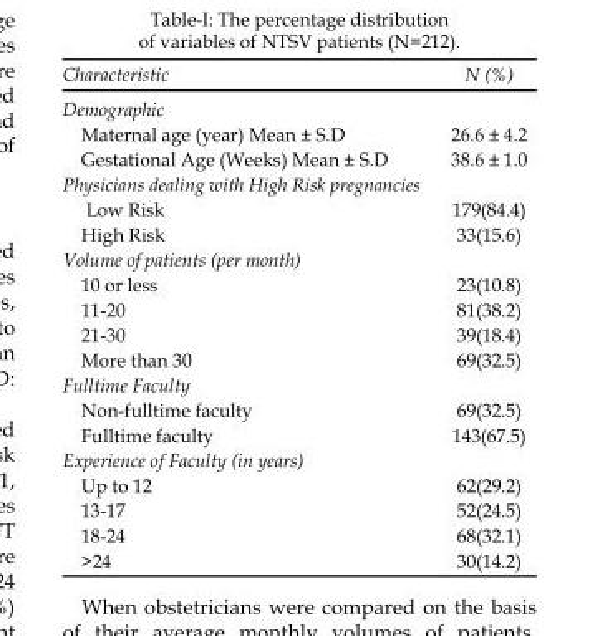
<table><thead><tr><td>Characteristic</td><td>N (%)</td></tr></thead><tbody><tr><td colspan="2">Demographic</td></tr><tr><td>Maternal age (year) Mean ± S.D</td><td>26.6 ± 4.2</td></tr><tr><td>Gestational Age (Weeks) Mean ± S.D</td><td>38.6 ± 1.0</td></tr><tr><td colspan="2">Physicians dealing with High Risk pregnancies</td></tr><tr><td>Low Risk</td><td>179(84.4)</td></tr><tr><td>High Risk</td><td>33(15.6)</td></tr><tr><td colspan="2">Volume of patients (per month)</td></tr><tr><td>10 or less</td><td>23(10.8)</td></tr><tr><td>11-20</td><td>81(38.2)</td></tr><tr><td>21-30</td><td>39(18.4)</td></tr><tr><td>More than 30</td><td>69(32.5)</td></tr><tr><td colspan="2">Fulltime Faculty</td></tr><tr><td>Non-fulltime faculty</td><td>69(32.5)</td></tr><tr><td>Fulltime faculty</td><td>143(67.5)</td></tr><tr><td colspan="2">Experience of Faculty (in years)</td></tr><tr><td>Up to 12</td><td>62(29.2)</td></tr><tr><td>13-17</td><td>52(24.5)</td></tr><tr><td>18-24</td><td>68(32.1)</td></tr><tr><td>&gt;24</td><td>30(14.2)</td></tr></tbody></table>